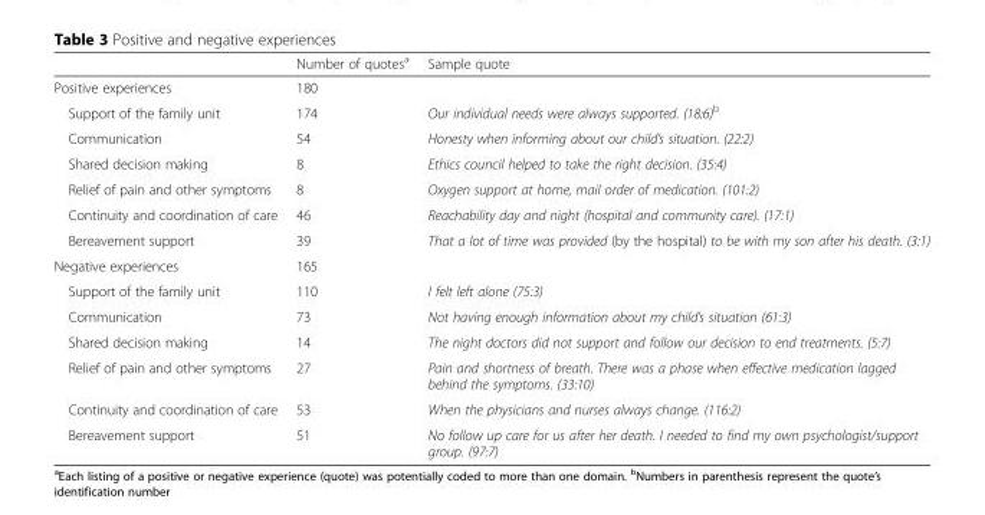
<table><thead><tr><td></td><td>Number of quotes<sup>a</sup></td><td>Sample quote</td></tr></thead><tbody><tr><td>Positive experiences</td><td>180</td><td></td></tr><tr><td>Support of the family unit</td><td>174</td><td>Our individual needs were always supported. (18:6)<sup>b</sup></td></tr><tr><td>Communication</td><td>54</td><td>Honesty when informing about our child’s situation. (22:2)</td></tr><tr><td>Shared decision making</td><td>8</td><td>Ethics council helped to take the right decision. (35:4)</td></tr><tr><td>Relief of pain and other symptoms</td><td>8</td><td>Oxygen support at home, mail order of medication. (101:2)</td></tr><tr><td>Continuity and coordination of care</td><td>46</td><td>Reachability day and night (hospital and community care). (17:1)</td></tr><tr><td>Bereavement support</td><td>39</td><td>That a lot of time was provided (by the hospital) to be with my son after his death. (3:1)</td></tr><tr><td>Negative experiences</td><td>165</td><td></td></tr><tr><td>Support of the family unit</td><td>110</td><td>I felt left alone (75:3)</td></tr><tr><td>Communication</td><td>73</td><td>Not having enough information about my child’s situation (61:3)</td></tr><tr><td>Shared decision making</td><td>14</td><td>The night doctors did not support and follow our decision to end treatments. (5:7)</td></tr><tr><td>Relief of pain and other symptoms</td><td>27</td><td>Pain and shortness of breath. There was a phase when effective medication lagged behind the symptoms. (33:10)</td></tr><tr><td>Continuity and coordination of care</td><td>53</td><td>When the physicians and nurses always change. (116:2)</td></tr><tr><td>Bereavement support</td><td>51</td><td>No follow up care for us after her death. I needed to find my own psychologist/support group. (97:7)</td></tr></tbody></table>